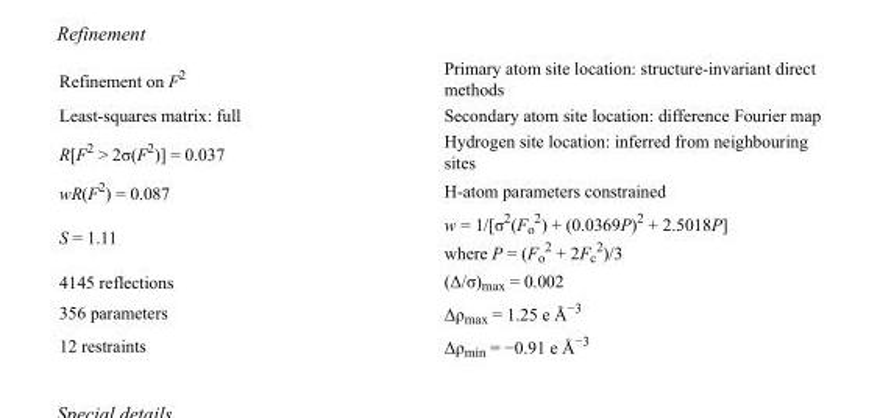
<table><tbody><tr><td>Refinement on F<sup>2</sup></td><td>Primary atom site location: structure-invariant direct methods</td></tr><tr><td>Least-squares matrix: full</td><td>Secondary atom site location: difference Fourier map</td></tr><tr><td>R[F<sup>2</sup> &gt; 2σ(F<sup>2</sup>)] = 0.037</td><td>Hydrogen site location: inferred from neighbouring sites</td></tr><tr><td>wR(F<sup>2</sup>) = 0.087</td><td>H-atom parameters constrained</td></tr><tr><td>S = 1.11</td><td>w = 1/[σ<sup>2</sup>(F<sub>o</sub> <sup>2</sup>) + (0.0369P)<sup>2</sup> + 2.5018P] where P = (F<sub>o</sub> <sup>2</sup> + 2F<sub>c</sub> <sup>2</sup>)/3</td></tr><tr><td>4145 reflections</td><td>(Δ/σ)<sub>max</sub> = 0.002</td></tr><tr><td>356 parameters</td><td>Δρ<sub>max</sub> = 1.25 e Å<sup>−3</sup></td></tr><tr><td>12 restraints</td><td>Δρ<sub>min</sub> = −0.91 e Å<sup>−3</sup></td></tr></tbody></table>